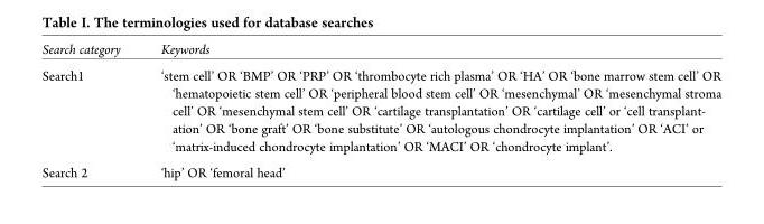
<table><thead><tr><td>Search category</td><td>Keywords</td></tr></thead><tbody><tr><td>Search1</td><td>‘stem cell’ OR ‘BMP’ OR ‘PRP’ OR ‘thrombocyte rich plasma’ OR ‘HA’ OR ‘bone marrow stem cell’ OR ‘hematopoietic stem cell’ OR ‘peripheral blood stem cell’ OR ‘mesenchymal’ OR ‘mesenchymal stroma cell’ OR ‘mesenchymal stem cell’ OR ‘cartilage transplantation’ OR ‘cartilage cell’ or ‘cell transplant- ation’ OR ‘bone graft’ OR ‘bone substitute’ OR ‘autologous chondrocyte implantation’ OR ‘ACI’ or ‘matrix-induced chondrocyte implantation’ OR ‘MACI’ OR ‘chondrocyte implant’.</td></tr><tr><td>Search 2</td><td>‘hip’ OR ‘femoral head’</td></tr></tbody></table>